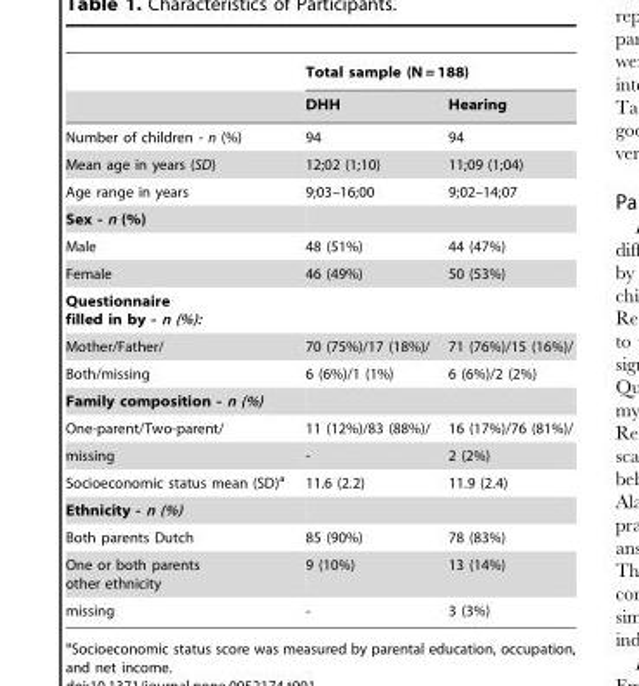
<table><thead><tr><td rowspan="2"></td><td colspan="2">Total sample (N = 188)</td></tr><tr><td>DHH</td><td>Hearing</td></tr></thead><tbody><tr><td>Number of children - n (%)</td><td>94</td><td>94</td></tr><tr><td>Mean age in years (SD)</td><td>12;02 (1;10)</td><td>11;09 (1;04)</td></tr><tr><td>Age range in years</td><td>9;03–16;00</td><td>9;02–14;07</td></tr><tr><td colspan="3">Sex - n (%)</td></tr><tr><td>Male</td><td>48 (51%)</td><td>44 (47%)</td></tr><tr><td>Female</td><td>46 (49%)</td><td>50 (53%)</td></tr><tr><td colspan="3">Questionnaire filled in by - n (%):</td></tr><tr><td>Mother/Father/</td><td>70 (75%)/17 (18%)/</td><td>71 (76%)/15 (16%)/</td></tr><tr><td>Both/missing</td><td>6 (6%)/1 (1%)</td><td>6 (6%)/2 (2%)</td></tr><tr><td colspan="3">Family composition - n (%)</td></tr><tr><td>One-parent/Two-parent/</td><td>11 (12%)/83 (88%)/</td><td>16 (17%)/76 (81%)/</td></tr><tr><td>missing</td><td>-</td><td>2 (2%)</td></tr><tr><td>Socioeconomic status mean (SD)<sup>a</sup></td><td>11.6 (2.2)</td><td>11.9 (2.4)</td></tr><tr><td colspan="3">Ethnicity - n (%)</td></tr><tr><td>Both parents Dutch</td><td>85 (90%)</td><td>78 (83%)</td></tr><tr><td>One or both parents other ethnicity</td><td>9 (10%)</td><td>13 (14%)</td></tr><tr><td>missing</td><td>-</td><td>3 (3%)</td></tr></tbody></table>